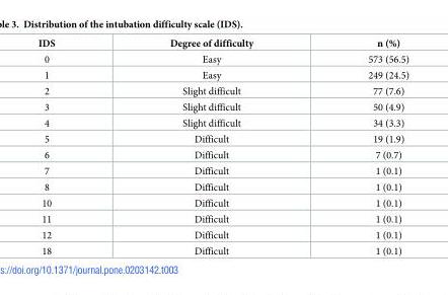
<table><thead><tr><td>IDS</td><td>Degree of difficulty</td><td>n (%)</td></tr></thead><tbody><tr><td>0</td><td>Easy</td><td>573 (56.5)</td></tr><tr><td>1</td><td>Easy</td><td>249 (24.5)</td></tr><tr><td>2</td><td>Slight difficult</td><td>77 (7.6)</td></tr><tr><td>3</td><td>Slight difficult</td><td>50 (4.9)</td></tr><tr><td>4</td><td>Slight difficult</td><td>34 (3.3)</td></tr><tr><td>5</td><td>Difficult</td><td>19 (1.9)</td></tr><tr><td>6</td><td>Difficult</td><td>7 (0.7)</td></tr><tr><td>7</td><td>Difficult</td><td>1 (0.1)</td></tr><tr><td>8</td><td>Difficult</td><td>1 (0.1)</td></tr><tr><td>10</td><td>Difficult</td><td>1 (0.1)</td></tr><tr><td>11</td><td>Difficult</td><td>1 (0.1)</td></tr><tr><td>12</td><td>Difficult</td><td>1 (0.1)</td></tr><tr><td>18</td><td>Difficult</td><td>1 (0.1)</td></tr></tbody></table>